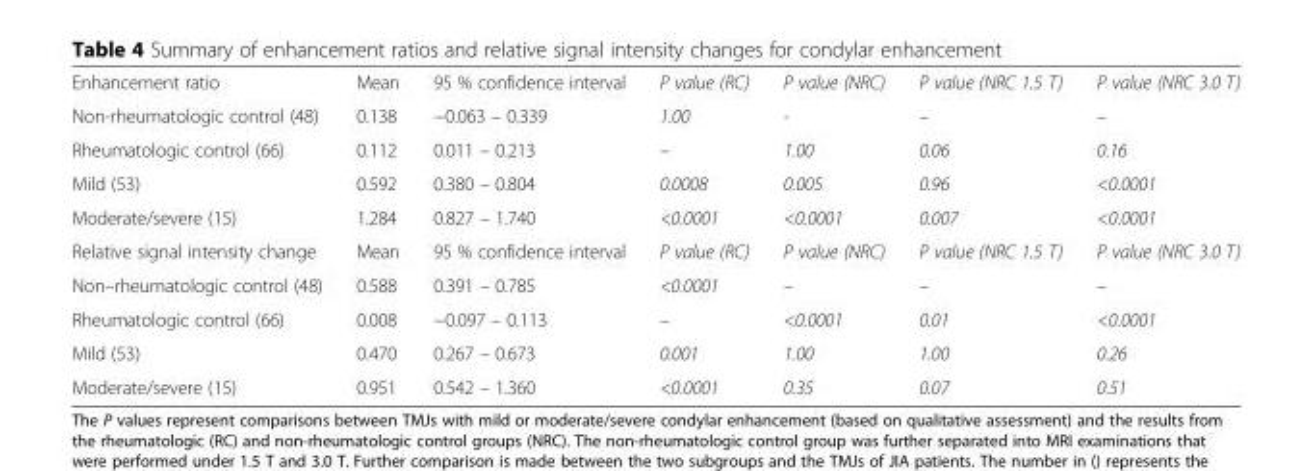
<table><tbody><tr><td>Enhancement ratio</td><td>Mean</td><td>95 % confidence interval</td><td>P value (RC)</td><td>P value (NRC)</td><td>P value (NRC 1.5 T)</td><td>P value (NRC 3.0 T)</td></tr><tr><td>Non-rheumatologic control (48)</td><td>0.138</td><td>−0.063 – 0.339</td><td>1.00</td><td>-</td><td>–</td><td>–</td></tr><tr><td>Rheumatologic control (66)</td><td>0.112</td><td>0.011 – 0.213</td><td>–</td><td>1.00</td><td>0.06</td><td>0.16</td></tr><tr><td>Mild (53)</td><td>0.592</td><td>0.380 – 0.804</td><td>0.0008</td><td>0.005</td><td>0.96</td><td>&lt;0.0001</td></tr><tr><td>Moderate/severe (15)</td><td>1.284</td><td>0.827 – 1.740</td><td>&lt;0.0001</td><td>&lt;0.0001</td><td>0.007</td><td>&lt;0.0001</td></tr><tr><td>Relative signal intensity change</td><td>Mean</td><td>95 % confidence interval</td><td>P value (RC)</td><td>P value (NRC)</td><td>P value (NRC 1.5 T)</td><td>P value (NRC 3.0 T)</td></tr><tr><td>Non–rheumatologic control (48)</td><td>0.588</td><td>0.391 – 0.785</td><td>&lt;0.0001</td><td>–</td><td>–</td><td>–</td></tr><tr><td>Rheumatologic control (66)</td><td>0.008</td><td>−0.097 – 0.113</td><td>–</td><td>&lt;0.0001</td><td>0.01</td><td>&lt;0.0001</td></tr><tr><td>Mild (53)</td><td>0.470</td><td>0.267 – 0.673</td><td>0.001</td><td>1.00</td><td>1.00</td><td>0.26</td></tr><tr><td>Moderate/severe (15)</td><td>0.951</td><td>0.542 – 1.360</td><td>&lt;0.0001</td><td>0.35</td><td>0.07</td><td>0.51</td></tr></tbody></table>